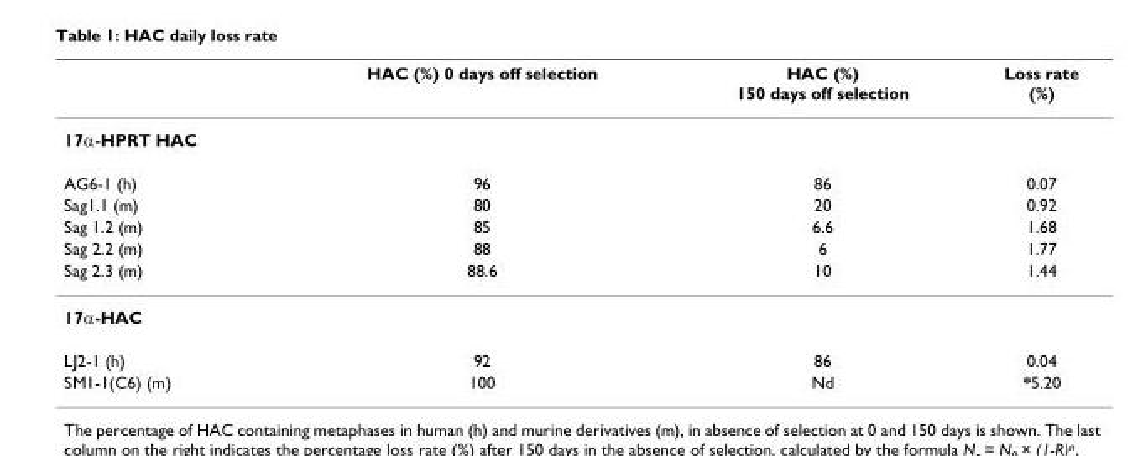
<table><thead><tr><td></td><td>HAC (%) 0 days off selection</td><td>HAC (%) 150 days off selection</td><td>Loss rate (%)</td></tr></thead><tbody><tr><td colspan="4">17α-HPRT HAC</td></tr><tr><td>AG6-1 (h)</td><td>96</td><td>86</td><td>0.07</td></tr><tr><td>Sag1.1 (m)</td><td>80</td><td>20</td><td>0.92</td></tr><tr><td>Sag 1.2 (m)</td><td>85</td><td>6.6</td><td>1.68</td></tr><tr><td>Sag 2.2 (m)</td><td>88</td><td>6</td><td>1.77</td></tr><tr><td>Sag 2.3 (m)</td><td>88.6</td><td>10</td><td>1.44</td></tr><tr><td colspan="4">17α-HAC</td></tr><tr><td>LJ2-1 (h)</td><td>92</td><td>86</td><td>0.04</td></tr><tr><td>SM1-1(C6) (m)</td><td>100</td><td>Nd</td><td>*5.20</td></tr></tbody></table>